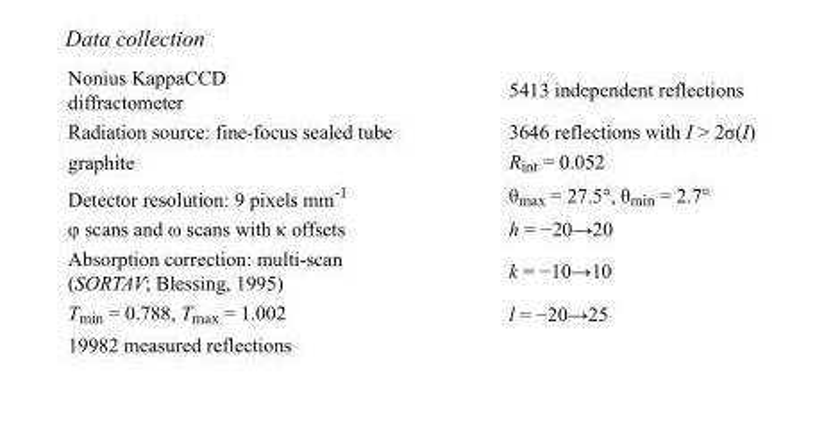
<table><tbody><tr><td>Nonius KappaCCD diffractometer</td><td>5413 independent reflections</td></tr><tr><td>Radiation source: fine-focus sealed tube</td><td>3646 reflections with I &gt; 2σ(I)</td></tr><tr><td>graphite</td><td>R<sub>int</sub> = 0.052</td></tr><tr><td>Detector resolution: 9 pixels mm<sup>-1</sup></td><td>θ<sub>max</sub> = 27.5°, θ<sub>min</sub> = 2.7°</td></tr><tr><td>φ scans and ω scans with κ offsets</td><td>h = −20→20</td></tr><tr><td>Absorption correction: multi-scan (SORTAV; Blessing, 1995)</td><td>k = −10→10</td></tr><tr><td>T<sub>min</sub> = 0.788, T<sub>max</sub> = 1.002</td><td>l = −20→25</td></tr><tr><td>19982 measured reflections</td><td></td></tr></tbody></table>